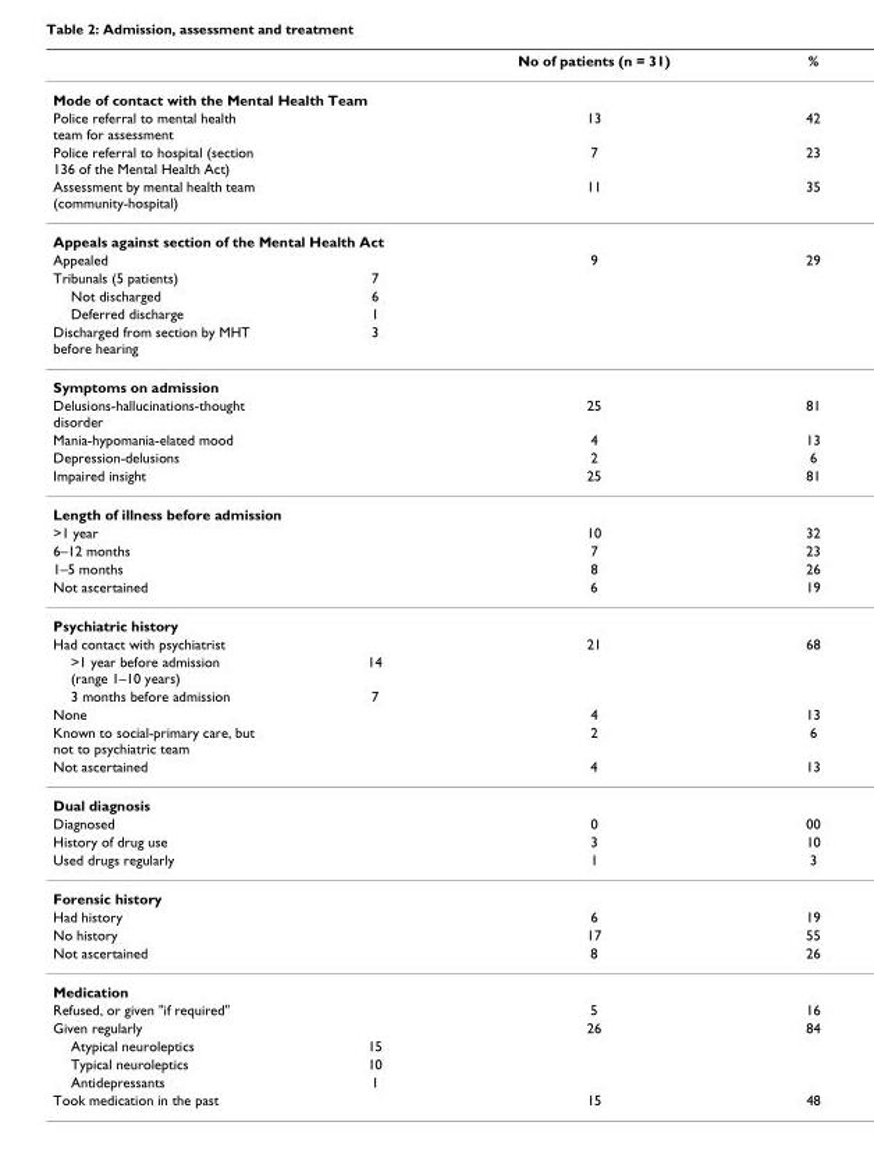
<table><thead><tr><td></td><td></td><td>No of patients (n = 31)</td><td>%</td></tr></thead><tbody><tr><td colspan="4">Mode of contact with the Mental Health Team</td></tr><tr><td>Police referral to mental health team for assessment</td><td></td><td>13</td><td>42</td></tr><tr><td>Police referral to hospital (section 136 of the Mental Health Act)</td><td></td><td>7</td><td>23</td></tr><tr><td>Assessment by mental health team (community-hospital)</td><td></td><td>11</td><td>35</td></tr><tr><td colspan="4">Appeals against section of the Mental Health Act</td></tr><tr><td>Appealed</td><td></td><td>9</td><td>29</td></tr><tr><td>Tribunals (5 patients)</td><td>7</td><td></td><td></td></tr><tr><td>Not discharged</td><td>6</td><td></td><td></td></tr><tr><td>Deferred discharge</td><td>1</td><td></td><td></td></tr><tr><td>Discharged from section by MHT before hearing</td><td>3</td><td></td><td></td></tr><tr><td colspan="4">Symptoms on admission</td></tr><tr><td>Delusions-hallucinations-thought disorder</td><td></td><td>25</td><td>81</td></tr><tr><td>Mania-hypomania-elated mood</td><td></td><td>4</td><td>13</td></tr><tr><td>Depression-delusions</td><td></td><td>2</td><td>6</td></tr><tr><td>Impaired insight</td><td></td><td>25</td><td>81</td></tr><tr><td colspan="4">Length of illness before admission</td></tr><tr><td>&gt;1 year</td><td></td><td>10</td><td>32</td></tr><tr><td>6–12 months</td><td></td><td>7</td><td>23</td></tr><tr><td>1–5 months</td><td></td><td>8</td><td>26</td></tr><tr><td>Not ascertained</td><td></td><td>6</td><td>19</td></tr><tr><td colspan="4">Psychiatric history</td></tr><tr><td>Had contact with psychiatrist</td><td></td><td>21</td><td>68</td></tr><tr><td>&gt;1 year before admission (range 1–10 years)</td><td>14</td><td></td><td></td></tr><tr><td>3 months before admission</td><td>7</td><td></td><td></td></tr><tr><td>None</td><td></td><td>4</td><td>13</td></tr><tr><td>Known to social-primary care, but not to psychiatric team</td><td></td><td>2</td><td>6</td></tr><tr><td>Not ascertained</td><td></td><td>4</td><td>13</td></tr><tr><td colspan="4">Dual diagnosis</td></tr><tr><td>Diagnosed</td><td></td><td>0</td><td>00</td></tr><tr><td>History of drug use</td><td></td><td>3</td><td>10</td></tr><tr><td>Used drugs regularly</td><td></td><td>1</td><td>3</td></tr><tr><td colspan="4">Forensic history</td></tr><tr><td>Had history</td><td></td><td>6</td><td>19</td></tr><tr><td>No history</td><td></td><td>17</td><td>55</td></tr><tr><td>Not ascertained</td><td></td><td>8</td><td>26</td></tr><tr><td colspan="4">Medication</td></tr><tr><td>Refused, or given &quot;if required&quot;</td><td></td><td>5</td><td>16</td></tr><tr><td>Given regularly</td><td></td><td>26</td><td>84</td></tr><tr><td>Atypical neuroleptics</td><td>15</td><td></td><td></td></tr><tr><td>Typical neuroleptics</td><td>10</td><td></td><td></td></tr><tr><td>Antidepressants</td><td>1</td><td></td><td></td></tr><tr><td>Took medication in the past</td><td></td><td>15</td><td>48</td></tr></tbody></table>